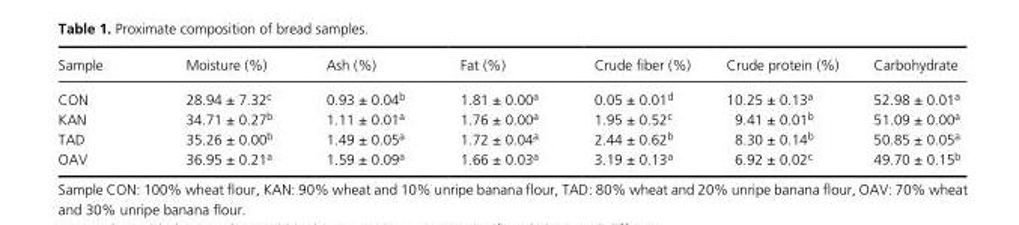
<table><thead><tr><td>Sample</td><td>Moisture (%)</td><td>Ash (%)</td><td>Fat (%)</td><td>Crude fiber (%)</td><td>Crude protein (%)</td><td>Carbohydrate</td></tr></thead><tbody><tr><td>CON</td><td>28.94 ± 7.32<sup>c</sup></td><td>0.93 ± 0.04<sup>b</sup></td><td>1.81 ± 0.00<sup>a</sup></td><td>0.05 ± 0.01<sup>d</sup></td><td>10.25 ± 0.13<sup>a</sup></td><td>52.98 ± 0.01<sup>a</sup></td></tr><tr><td>KAN</td><td>34.71 ± 0.27<sup>b</sup></td><td>1.11 ± 0.01<sup>a</sup></td><td>1.76 ± 0.00<sup>a</sup></td><td>1.95 ± 0.52<sup>c</sup></td><td>9.41 ± 0.01<sup>b</sup></td><td>51.09 ± 0.00<sup>a</sup></td></tr><tr><td>TAD</td><td>35.26 ± 0.00<sup>b</sup></td><td>1.49 ± 0.05<sup>a</sup></td><td>1.72 ± 0.04<sup>a</sup></td><td>2.44 ± 0.62<sup>b</sup></td><td>8.30 ± 0.14<sup>b</sup></td><td>50.85 ± 0.05<sup>a</sup></td></tr><tr><td>OAV</td><td>36.95 ± 0.21<sup>a</sup></td><td>1.59 ± 0.09<sup>a</sup></td><td>1.66 ± 0.03<sup>a</sup></td><td>3.19 ± 0.13<sup>a</sup></td><td>6.92 ± 0.02<sup>c</sup></td><td>49.70 ± 0.15<sup>b</sup></td></tr></tbody></table>